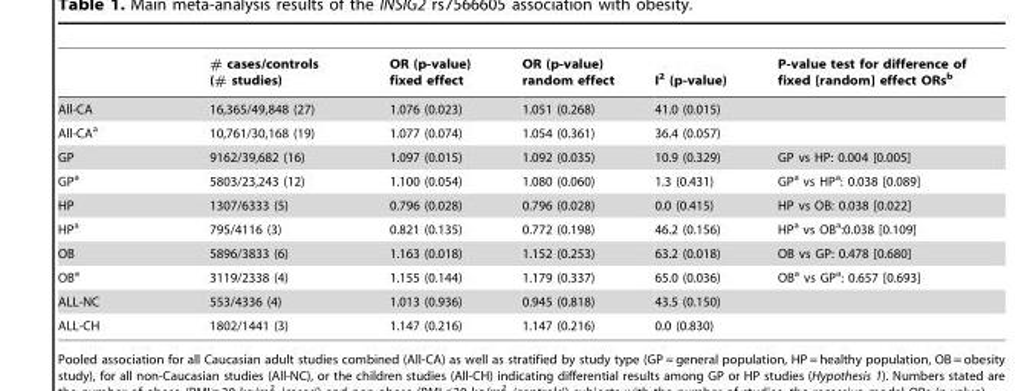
<table><thead><tr><td></td><td># cases/controls (# studies)</td><td>OR (p-value) fixed effect</td><td>OR (p-value) random effect</td><td>I<sup>2</sup> (p-value)</td><td>P-value test for difference of fixed [random] effect ORs<sup>b</sup></td></tr></thead><tbody><tr><td>All-CA</td><td>16,365/49,848 (27)</td><td>1.076 (0.023)</td><td>1.051 (0.268)</td><td>41.0 (0.015)</td><td></td></tr><tr><td>All-CA<sup>a</sup></td><td>10,761/30,168 (19)</td><td>1.077 (0.074)</td><td>1.054 (0.361)</td><td>36.4 (0.057)</td><td></td></tr><tr><td>GP</td><td>9162/39,682 (16)</td><td>1.097 (0.015)</td><td>1.092 (0.035)</td><td>10.9 (0.329)</td><td>GP vs HP: 0.004 [0.005]</td></tr><tr><td>GP<sup>a</sup></td><td>5803/23,243 (12)</td><td>1.100 (0.054)</td><td>1.080 (0.060)</td><td>1.3 (0.431)</td><td>GP<sup>a</sup> vs HP<sup>a</sup>: 0.038 [0.089]</td></tr><tr><td>HP</td><td>1307/6333 (5)</td><td>0.796 (0.028)</td><td>0.796 (0.028)</td><td>0.0 (0.415)</td><td>HP vs OB: 0.038 [0.022]</td></tr><tr><td>HP<sup>a</sup></td><td>795/4116 (3)</td><td>0.821 (0.135)</td><td>0.772 (0.198)</td><td>46.2 (0.156)</td><td>HP<sup>a</sup> vs OB<sup>a</sup>:0.038 [0.109]</td></tr><tr><td>OB</td><td>5896/3833 (6)</td><td>1.163 (0.018)</td><td>1.152 (0.253)</td><td>63.2 (0.018)</td><td>OB vs GP: 0.478 [0.680]</td></tr><tr><td>OB<sup>a</sup></td><td>3119/2338 (4)</td><td>1.155 (0.144)</td><td>1.179 (0.337)</td><td>65.0 (0.036)</td><td>OB<sup>a</sup> vs GP<sup>a</sup>: 0.657 [0.693]</td></tr><tr><td>ALL-NC</td><td>553/4336 (4)</td><td>1.013 (0.936)</td><td>0.945 (0.818)</td><td>43.5 (0.150)</td><td></td></tr><tr><td>ALL-CH</td><td>1802/1441 (3)</td><td>1.147 (0.216)</td><td>1.147 (0.216)</td><td>0.0 (0.830)</td><td></td></tr></tbody></table>